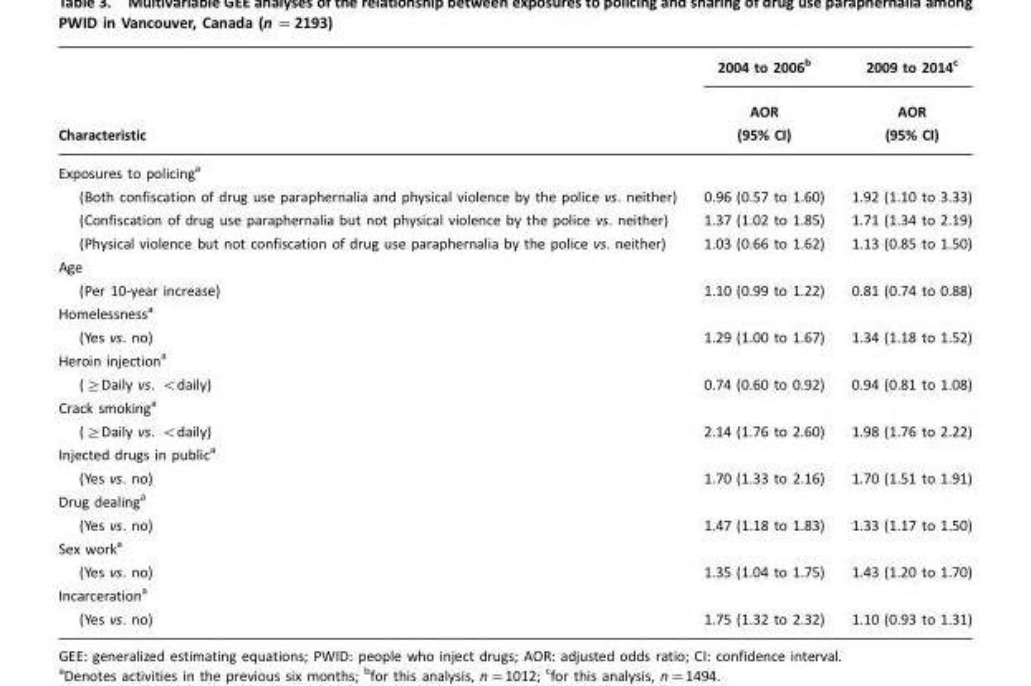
<table><thead><tr><td rowspan="2">Characteristic</td><td rowspan="2">2004 to 2006<sup>b</sup> AOR (95% CI)</td><td rowspan="2">2009 to 2014<sup>c</sup> AOR (95% CI)</td></tr><tr></tr></thead><tbody><tr><td>Exposures to policing<sup>a</sup> (Both confiscation of drug use paraphernalia and physical violence by the police vs. neither) (Confiscation of drug use paraphernalia but not physical violence by the police vs. neither) (Physical violence but not confiscation of drug use paraphernalia by the police vs. neither)</td><td>0.96 (0.57 to 1.60) 1.37 (1.02 to 1.85) 1.03 (0.66 to 1.62)</td><td>1.92 (1.10 to 3.33) 1.71 (1.34 to 2.19) 1.13 (0.85 to 1.50)</td></tr><tr><td>Age (Per 10-year increase)</td><td>1.10 (0.99 to 1.22)</td><td>0.81 (0.74 to 0.88)</td></tr><tr><td>Homelessness<sup>a</sup> (Yes vs. no)</td><td>1.29 (1.00 to 1.67)</td><td>1.34 (1.18 to 1.52)</td></tr><tr><td>Heroin injection<sup>a</sup> (≥Daily vs. &lt;daily)</td><td>0.74 (0.60 to 0.92)</td><td>0.94 (0.81 to 1.08)</td></tr><tr><td>Crack smoking<sup>a</sup> (≥Daily vs. &lt;daily)</td><td>2.14 (1.76 to 2.60)</td><td>1.98 (1.76 to 2.22)</td></tr><tr><td>Injected drugs in public<sup>a</sup> (Yes vs. no)</td><td>1.70 (1.33 to 2.16)</td><td>1.70 (1.51 to 1.91)</td></tr><tr><td>Drug dealing<sup>a</sup> (Yes vs. no)</td><td>1.47 (1.18 to 1.83)</td><td>1.33 (1.17 to 1.50)</td></tr><tr><td>Sex work<sup>a</sup> (Yes vs. no)</td><td>1.35 (1.04 to 1.75)</td><td>1.43 (1.20 to 1.70)</td></tr><tr><td>Incarceration<sup>a</sup> (Yes vs. no)</td><td>1.75 (1.32 to 2.32)</td><td>1.10 (0.93 to 1.31)</td></tr></tbody></table>